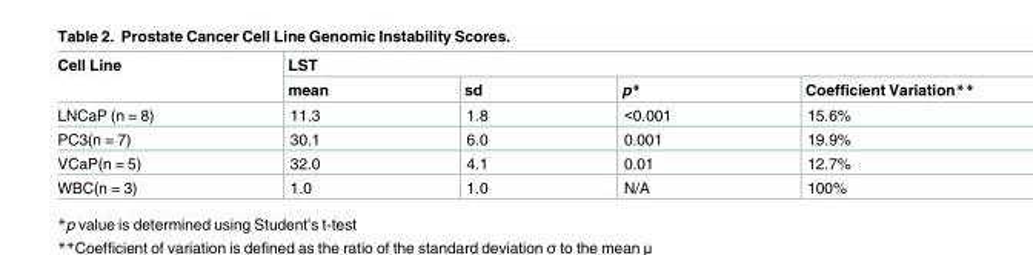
<table><thead><tr><td rowspan="2">Cell Line</td><td colspan="4">LST</td></tr><tr><td>mean</td><td>sd</td><td>p*</td><td>Coefficient Variation**</td></tr></thead><tbody><tr><td>LNCaP (n = 8)</td><td>11.3</td><td>1.8</td><td>&lt;0.001</td><td>15.6%</td></tr><tr><td>PC3(n = 7)</td><td>30.1</td><td>6.0</td><td>0.001</td><td>19.9%</td></tr><tr><td>VCaP(n = 5)</td><td>32.0</td><td>4.1</td><td>0.01</td><td>12.7%</td></tr><tr><td>WBC(n = 3)</td><td>1.0</td><td>1.0</td><td>N/A</td><td>100%</td></tr></tbody></table>